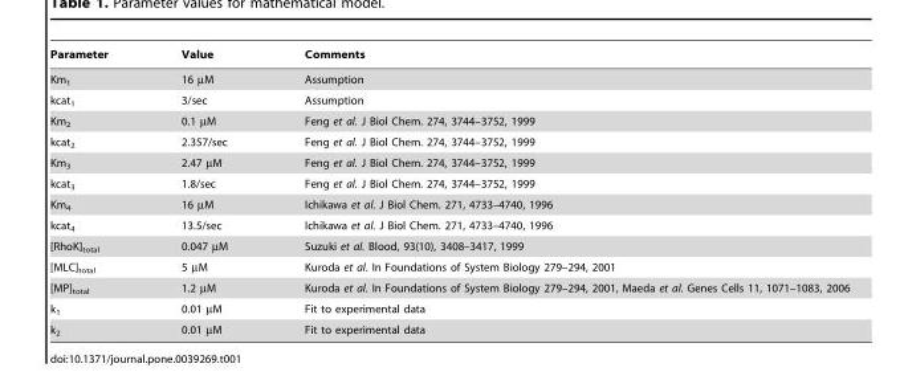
<table><thead><tr><td>Parameter</td><td>Value</td><td>Comments</td></tr></thead><tbody><tr><td>Km<sub>1</sub></td><td>16 µM</td><td>Assumption</td></tr><tr><td>kcat<sub>1</sub></td><td>3/sec</td><td>Assumption</td></tr><tr><td>Km<sub>2</sub></td><td>0.1 µM</td><td>Feng et al. J Biol Chem. 274, 3744–3752, 1999</td></tr><tr><td>kcat<sub>2</sub></td><td>2.357/sec</td><td>Feng et al. J Biol Chem. 274, 3744–3752, 1999</td></tr><tr><td>Km<sub>3</sub></td><td>2.47 µM</td><td>Feng et al. J Biol Chem. 274, 3744–3752, 1999</td></tr><tr><td>kcat<sub>3</sub></td><td>1.8/sec</td><td>Feng et al. J Biol Chem. 274, 3744–3752, 1999</td></tr><tr><td>Km<sub>4</sub></td><td>16 µM</td><td>Ichikawa et al. J Biol Chem. 271, 4733–4740, 1996</td></tr><tr><td>kcat<sub>4</sub></td><td>13.5/sec</td><td>Ichikawa et al. J Biol Chem. 271, 4733–4740, 1996</td></tr><tr><td>[RhoK]<sub>total</sub></td><td>0.047 µM</td><td>Suzuki et al. Blood, 93(10), 3408–3417, 1999</td></tr><tr><td>[MLC]<sub>total</sub></td><td>5 µM</td><td>Kuroda et al. In Foundations of System Biology 279–294, 2001</td></tr><tr><td>[MP]<sub>total</sub></td><td>1.2 µM</td><td>Kuroda et al. In Foundations of System Biology 279–294, 2001, Maeda et al. Genes Cells 11, 1071–1083, 2006</td></tr><tr><td>k<sub>1</sub></td><td>0.01 µM</td><td>Fit to experimental data</td></tr><tr><td>k<sub>2</sub></td><td>0.01 µM</td><td>Fit to experimental data</td></tr></tbody></table>